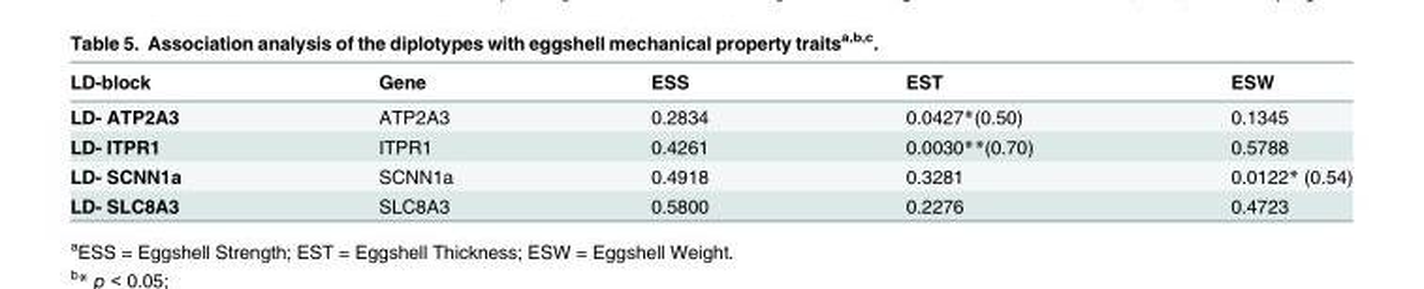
<table><thead><tr><td>LD-block</td><td>Gene</td><td>ESS</td><td>EST</td><td>ESW</td></tr></thead><tbody><tr><td>LD- ATP2A3</td><td>ATP2A3</td><td>0.2834</td><td>0.0427*(0.50)</td><td>0.1345</td></tr><tr><td>LD- ITPR1</td><td>ITPR1</td><td>0.4261</td><td>0.0030**(0.70)</td><td>0.5788</td></tr><tr><td>LD- SCNN1a</td><td>SCNN1<sup>a</sup></td><td>0.4918</td><td>0.3281</td><td>0.0122* (0.54)</td></tr><tr><td>LD- SLC8A3</td><td>SLC8A3</td><td>0.5800</td><td>0.2276</td><td>0.4723</td></tr></tbody></table>